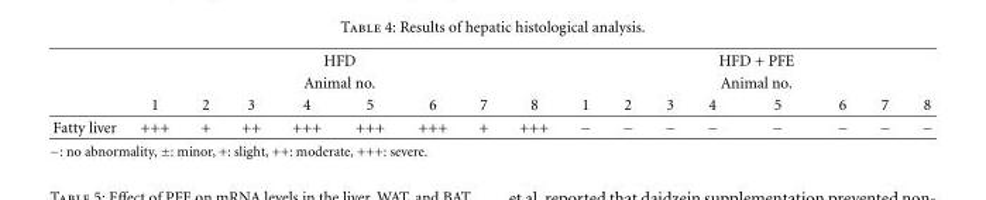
<table><thead><tr><td rowspan="3"></td><td rowspan="3">1</td><td rowspan="3">2</td><td rowspan="3">3</td><td rowspan="2" colspan="2">HFD Animal no.</td><td rowspan="3">6</td><td rowspan="3">7</td><td rowspan="3">8</td><td rowspan="3">1</td><td rowspan="3">2</td><td rowspan="3">3</td><td rowspan="2" colspan="2">HFD + PFE Animal no.</td><td rowspan="3">6</td><td rowspan="3">7</td><td rowspan="3">8</td></tr><tr></tr><tr><td>4</td><td>5</td><td>4</td><td>5</td></tr></thead><tbody><tr><td>Fatty liver</td><td>+++</td><td>+</td><td>++</td><td>+++</td><td>+++</td><td>+++</td><td>+</td><td>+++</td><td>−</td><td>−</td><td>−</td><td>−</td><td>−</td><td>−</td><td>−</td><td>−</td></tr></tbody></table>